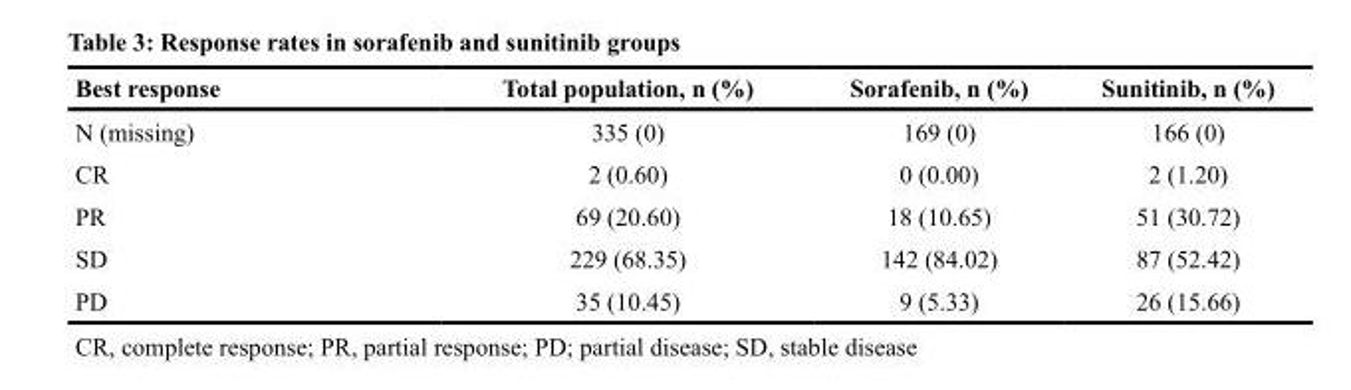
<table><thead><tr><td>Best response</td><td>Total population, n (%)</td><td>Sorafenib, n (%)</td><td>Sunitinib, n (%)</td></tr></thead><tbody><tr><td>N (missing)</td><td>335 (0)</td><td>169 (0)</td><td>166 (0)</td></tr><tr><td>CR</td><td>2 (0.60)</td><td>0 (0.00)</td><td>2 (1.20)</td></tr><tr><td>PR</td><td>69 (20.60)</td><td>18 (10.65)</td><td>51 (30.72)</td></tr><tr><td>SD</td><td>229 (68.35)</td><td>142 (84.02)</td><td>87 (52.42)</td></tr><tr><td>PD</td><td>35 (10.45)</td><td>9 (5.33)</td><td>26 (15.66)</td></tr></tbody></table>